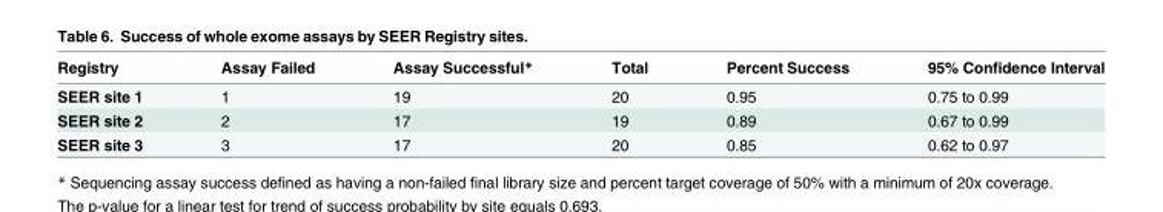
<table><thead><tr><td>Registry</td><td>Assay Failed</td><td>Assay Successful*</td><td>Total</td><td>Percent Success</td><td>95% Confidence Interval</td></tr></thead><tbody><tr><td>SEER site 1</td><td>1</td><td>19</td><td>20</td><td>0.95</td><td>0.75 to 0.99</td></tr><tr><td>SEER site 2</td><td>2</td><td>17</td><td>19</td><td>0.89</td><td>0.67 to 0.99</td></tr><tr><td>SEER site 3</td><td>3</td><td>17</td><td>20</td><td>0.85</td><td>0.62 to 0.97</td></tr></tbody></table>